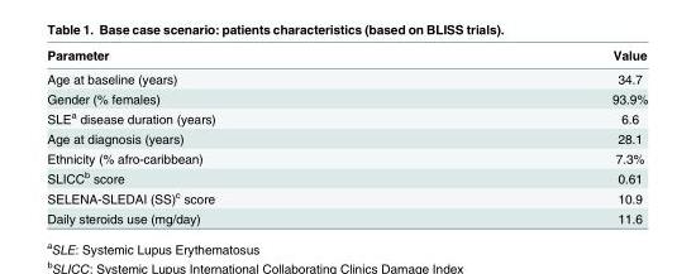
<table><thead><tr><td>Parameter</td><td>Value</td></tr></thead><tbody><tr><td>Age at baseline (years)</td><td>34.7</td></tr><tr><td>Gender (% females)</td><td>93.9%</td></tr><tr><td>SLE<sup>a</sup> disease duration (years)</td><td>6.6</td></tr><tr><td>Age at diagnosis (years)</td><td>28.1</td></tr><tr><td>Ethnicity (% afro-caribbean)</td><td>7.3%</td></tr><tr><td>SLICC<sup>b</sup> score</td><td>0.61</td></tr><tr><td>SELENA-SLEDAI (SS)<sup>c</sup> score</td><td>10.9</td></tr><tr><td>Daily steroids use (mg/day)</td><td>11.6</td></tr></tbody></table>